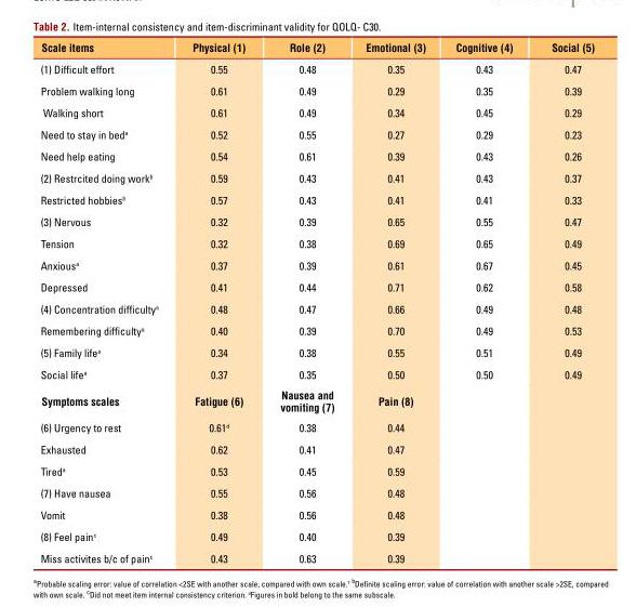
<table><thead><tr><td>Scale items</td><td>Physical (1)</td><td>Role (2)</td><td>Emotional (3)</td><td>Cognitive (4)</td><td>Social (5)</td></tr></thead><tbody><tr><td>(1) Difficult effort</td><td>0.55</td><td>0.48</td><td>0.35</td><td>0.43</td><td>0.47</td></tr><tr><td>Problem walking long</td><td>0.61</td><td>0.49</td><td>0.29</td><td>0.35</td><td>0.39</td></tr><tr><td>Walking short</td><td>0.61</td><td>0.49</td><td>0.34</td><td>0.45</td><td>0.29</td></tr><tr><td>Need to stay in bed<sup>a</sup></td><td>0.52</td><td>0.55</td><td>0.27</td><td>0.29</td><td>0.23</td></tr><tr><td>Need help eating</td><td>0.54</td><td>0.61</td><td>0.39</td><td>0.43</td><td>0.26</td></tr><tr><td>(2) Restrcited doing work<sup>b</sup></td><td>0.59</td><td>0.43</td><td>0.41</td><td>0.43</td><td>0.37</td></tr><tr><td>Restricted hobbies<sup>b</sup></td><td>0.57</td><td>0.43</td><td>0.41</td><td>0.41</td><td>0.33</td></tr><tr><td>(3) Nervous</td><td>0.32</td><td>0.39</td><td>0.65</td><td>0.55</td><td>0.47</td></tr><tr><td>Tension</td><td>0.32</td><td>0.38</td><td>0.69</td><td>0.65</td><td>0.49</td></tr><tr><td>Anxious<sup>a</sup></td><td>0.37</td><td>0.39</td><td>0.61</td><td>0.67</td><td>0.45</td></tr><tr><td>Depressed</td><td>0.41</td><td>0.44</td><td>0.71</td><td>0.62</td><td>0.58</td></tr><tr><td>(4) Concentration difficulty<sup>a</sup></td><td>0.48</td><td>0.47</td><td>0.66</td><td>0.49</td><td>0.48</td></tr><tr><td>Remembering difficulty<sup>a</sup></td><td>0.40</td><td>0.39</td><td>0.70</td><td>0.49</td><td>0.53</td></tr><tr><td>(5) Family life<sup>a</sup></td><td>0.34</td><td>0.38</td><td>0.55</td><td>0.51</td><td>0.49</td></tr><tr><td>Social life<sup>a</sup></td><td>0.37</td><td>0.35</td><td>0.50</td><td>0.50</td><td>0.49</td></tr><tr><td>Symptoms scales</td><td>Fatigue (6)</td><td>Nausea and vomiting (7)</td><td>Pain (8)</td><td colspan="2"></td></tr><tr><td>(6) Urgency to rest</td><td>0.61<sup>d</sup></td><td>0.38</td><td>0.44</td><td></td><td></td></tr><tr><td>Exhausted</td><td>0.62</td><td>0.41</td><td>0.47</td><td></td><td></td></tr><tr><td>Tired<sup>a</sup></td><td>0.53</td><td>0.45</td><td>0.59</td><td></td><td></td></tr><tr><td>(7) Have nausea</td><td>0.55</td><td>0.56</td><td>0.48</td><td></td><td></td></tr><tr><td>Vomit</td><td>0.38</td><td>0.56</td><td>0.48</td><td></td><td></td></tr><tr><td>(8) Feel pain<sup>c</sup></td><td>0.49</td><td>0.40</td><td>0.39</td><td></td><td></td></tr><tr><td>Miss activites b/c of pain<sup>c</sup></td><td>0.43</td><td>0.63</td><td>0.39</td><td></td><td></td></tr></tbody></table>